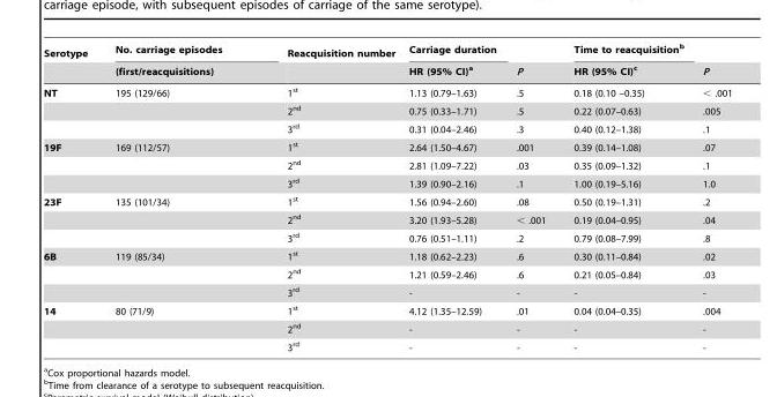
<table><thead><tr><td rowspan="2">Serotype</td><td rowspan="2">No. carriage episodes (first/reacquisitions)</td><td rowspan="2">Reacquisition number</td><td rowspan="2">Carriage duration HR (95% CI)<sup>a</sup></td><td rowspan="2">P</td><td rowspan="2">Time to reacquisition<sup>b</sup> HR (95% CI)<sup>c</sup></td><td rowspan="2">P</td></tr><tr></tr></thead><tbody><tr><td rowspan="3">NT</td><td>195 (129/66)</td><td>1<sup>st</sup></td><td>1.13 (0.79–1.63)</td><td>.5</td><td>0.18 (0.10 –0.35)</td><td>&lt; .001</td></tr><tr><td></td><td>2<sup>nd</sup></td><td>0.75 (0.33–1.71)</td><td>.5</td><td>0.22 (0.07–0.63)</td><td>.005</td></tr><tr><td></td><td>3<sup>rd</sup></td><td>0.31 (0.04–2.46)</td><td>.3</td><td>0.40 (0.12–1.38)</td><td>.1</td></tr><tr><td rowspan="3">19F</td><td>169 (112/57)</td><td>1<sup>st</sup></td><td>2.64 (1.50–4.67)</td><td>.001</td><td>0.39 (0.14–1.08)</td><td>.07</td></tr><tr><td></td><td>2<sup>nd</sup></td><td>2.81 (1.09–7.22)</td><td>.03</td><td>0.35 (0.09–1.32)</td><td>.1</td></tr><tr><td></td><td>3<sup>rd</sup></td><td>1.39 (0.90–2.16)</td><td>.1</td><td>1.00 (0.19–5.16)</td><td>1.0</td></tr><tr><td rowspan="3">23F</td><td>135 (101/34)</td><td>1<sup>st</sup></td><td>1.56 (0.94–2.60)</td><td>.08</td><td>0.50 (0.19–1.31)</td><td>.2</td></tr><tr><td></td><td>2<sup>nd</sup></td><td>3.20 (1.93–5.28)</td><td>&lt; .001</td><td>0.19 (0.04–0.95)</td><td>.04</td></tr><tr><td></td><td>3<sup>rd</sup></td><td>0.76 (0.51–1.11)</td><td>.2</td><td>0.79 (0.08–7.99)</td><td>.8</td></tr><tr><td rowspan="3">6B</td><td>119 (85/34)</td><td>1<sup>st</sup></td><td>1.18 (0.62–2.23)</td><td>.6</td><td>0.30 (0.11–0.84)</td><td>.02</td></tr><tr><td></td><td>2<sup>nd</sup></td><td>1.21 (0.59–2.46)</td><td>.6</td><td>0.21 (0.05–0.84)</td><td>.03</td></tr><tr><td></td><td>3<sup>rd</sup></td><td>-</td><td>-</td><td>-</td><td>-</td></tr><tr><td rowspan="3">14</td><td>80 (71/9)</td><td>1<sup>st</sup></td><td>4.12 (1.35–12.59)</td><td>.01</td><td>0.04 (0.04–0.35)</td><td>.004</td></tr><tr><td></td><td>2<sup>nd</sup></td><td>-</td><td>-</td><td>-</td><td>-</td></tr><tr><td></td><td>3<sup>rd</sup></td><td>-</td><td>-</td><td>-</td><td>-</td></tr></tbody></table>